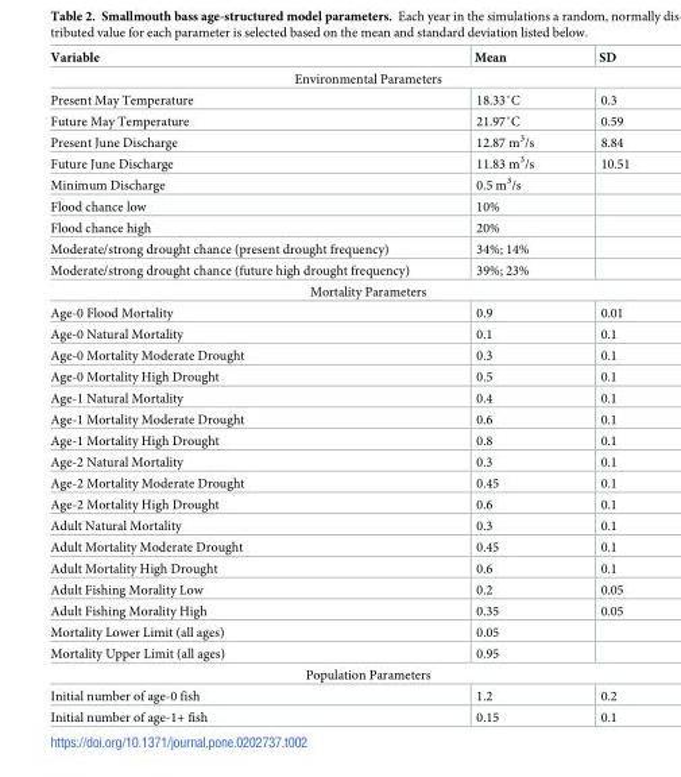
<table><thead><tr><td>Variable</td><td>Mean</td><td>SD</td></tr></thead><tbody><tr><td colspan="3">Environmental Parameters</td></tr><tr><td>Present May Temperature</td><td>18.33˚C</td><td>0.3</td></tr><tr><td>Future May Temperature</td><td>21.97˚C</td><td>0.59</td></tr><tr><td>Present June Discharge</td><td>12.87 m<sup>3</sup>/s</td><td>8.84</td></tr><tr><td>Future June Discharge</td><td>11.83 m<sup>3</sup>/s</td><td>10.51</td></tr><tr><td>Minimum Discharge</td><td>0.5 m<sup>3</sup>/s</td><td></td></tr><tr><td>Flood chance low</td><td>10%</td><td></td></tr><tr><td>Flood chance high</td><td>20%</td><td></td></tr><tr><td>Moderate/strong drought chance (present drought frequency)</td><td>34%; 14%</td><td></td></tr><tr><td>Moderate/strong drought chance (future high drought frequency)</td><td>39%; 23%</td><td></td></tr><tr><td colspan="3">Mortality Parameters</td></tr><tr><td>Age-0 Flood Mortality</td><td>0.9</td><td>0.01</td></tr><tr><td>Age-0 Natural Mortality</td><td>0.1</td><td>0.1</td></tr><tr><td>Age-0 Mortality Moderate Drought</td><td>0.3</td><td>0.1</td></tr><tr><td>Age-0 Mortality High Drought</td><td>0.5</td><td>0.1</td></tr><tr><td>Age-1 Natural Mortality</td><td>0.4</td><td>0.1</td></tr><tr><td>Age-1 Mortality Moderate Drought</td><td>0.6</td><td>0.1</td></tr><tr><td>Age-1 Mortality High Drought</td><td>0.8</td><td>0.1</td></tr><tr><td>Age-2 Natural Mortality</td><td>0.3</td><td>0.1</td></tr><tr><td>Age-2 Mortality Moderate Drought</td><td>0.45</td><td>0.1</td></tr><tr><td>Age-2 Mortality High Drought</td><td>0.6</td><td>0.1</td></tr><tr><td>Adult Natural Mortality</td><td>0.3</td><td>0.1</td></tr><tr><td>Adult Mortality Moderate Drought</td><td>0.45</td><td>0.1</td></tr><tr><td>Adult Mortality High Drought</td><td>0.6</td><td>0.1</td></tr><tr><td>Adult Fishing Morality Low</td><td>0.2</td><td>0.05</td></tr><tr><td>Adult Fishing Morality High</td><td>0.35</td><td>0.05</td></tr><tr><td>Mortality Lower Limit (all ages)</td><td>0.05</td><td></td></tr><tr><td>Mortality Upper Limit (all ages)</td><td>0.95</td><td></td></tr><tr><td colspan="3">Population Parameters</td></tr><tr><td>Initial number of age-0 fish</td><td>1.2</td><td>0.2</td></tr><tr><td>Initial number of age-1+ fish</td><td>0.15</td><td>0.1</td></tr></tbody></table>